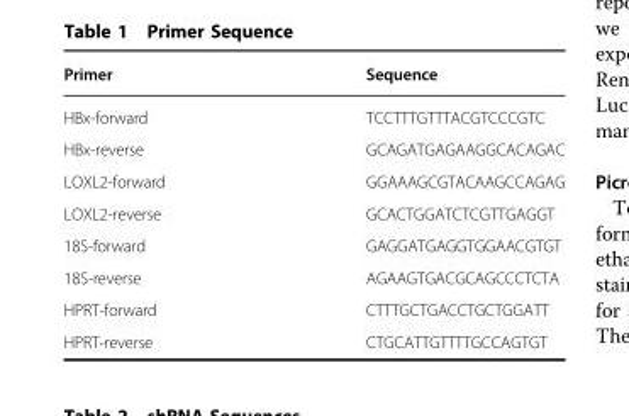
<table><thead><tr><td>Primer</td><td>Sequence</td></tr></thead><tbody><tr><td>HBx-forward</td><td>TCCTTTGTTTACGTCCCGTC</td></tr><tr><td>HBx-reverse</td><td>GCAGATGAGAAGGCACAGAC</td></tr><tr><td>LOXL2-forward</td><td>GGAAAGCGTACAAGCCAGAG</td></tr><tr><td>LOXL2-reverse</td><td>GCACTGGATCTCGTTGAGGT</td></tr><tr><td>18S-forward</td><td>GAGGATGAGGTGGAACGTGT</td></tr><tr><td>18S-reverse</td><td>AGAAGTGACGCAGCCCTCTA</td></tr><tr><td>HPRT-forward</td><td>CTTTGCTGACCTGCTGGATT</td></tr><tr><td>HPRT-reverse</td><td>CTGCATTGTTTTGCCAGTGT</td></tr></tbody></table>